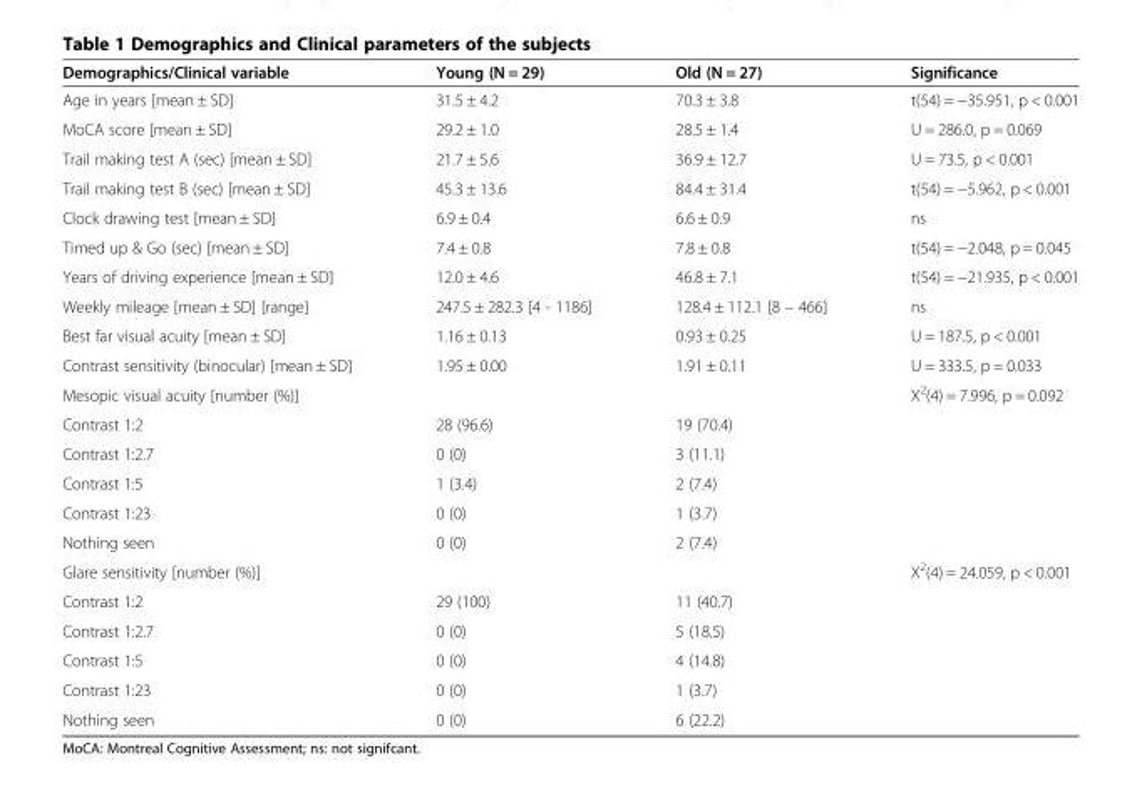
<table><thead><tr><td>Demographics/Clinical variable</td><td>Young (N = 29)</td><td>Old (N = 27)</td><td>Significance</td></tr></thead><tbody><tr><td>Age in years [mean ± SD]</td><td>31.5 ± 4.2</td><td>70.3 ± 3.8</td><td>t(54) = −35.951, p &lt; 0.001</td></tr><tr><td>MoCA score [mean ± SD]</td><td>29.2 ± 1.0</td><td>28.5 ± 1.4</td><td>U = 286.0, p = 0.069</td></tr><tr><td>Trail making test A (sec) [mean ± SD]</td><td>21.7 ± 5.6</td><td>36.9 ± 12.7</td><td>U = 73.5, p &lt; 0.001</td></tr><tr><td>Trail making test B (sec) [mean ± SD]</td><td>45.3 ± 13.6</td><td>84.4 ± 31.4</td><td>t(54) = −5.962, p &lt; 0.001</td></tr><tr><td>Clock drawing test [mean ± SD]</td><td>6.9 ± 0.4</td><td>6.6 ± 0.9</td><td>ns</td></tr><tr><td>Timed up &amp; Go (sec) [mean ± SD]</td><td>7.4 ± 0.8</td><td>7.8 ± 0.8</td><td>t(54) = −2.048, p = 0.045</td></tr><tr><td>Years of driving experience [mean ± SD]</td><td>12.0 ± 4.6</td><td>46.8 ± 7.1</td><td>t(54) = −21.935, p &lt; 0.001</td></tr><tr><td>Weekly mileage [mean ± SD] [range]</td><td>247.5 ± 282.3 [4 - 1186]</td><td>128.4 ± 112.1 [8 – 466]</td><td>ns</td></tr><tr><td>Best far visual acuity [mean ± SD]</td><td>1.16 ± 0.13</td><td>0.93 ± 0.25</td><td>U = 187.5, p &lt; 0.001</td></tr><tr><td>Contrast sensitivity (binocular) [mean ± SD]</td><td>1.95 ± 0.00</td><td>1.91 ± 0.11</td><td>U = 333.5, p = 0.033</td></tr><tr><td colspan="3">Mesopic visual acuity [number (%)]</td><td rowspan="6">Χ<sup>2</sup>(4) = 7.996, p = 0.092</td></tr><tr><td>Contrast 1:2</td><td>28 (96.6)</td><td>19 (70.4)</td></tr><tr><td>Contrast 1:2.7</td><td>0 (0)</td><td>3 (11.1)</td></tr><tr><td>Contrast 1:5</td><td>1 (3.4)</td><td>2 (7.4)</td></tr><tr><td>Contrast 1:23</td><td>0 (0)</td><td>1 (3.7)</td></tr><tr><td>Nothing seen</td><td>0 (0)</td><td>2 (7.4)</td></tr><tr><td colspan="3">Glare sensitivity [number (%)]</td><td rowspan="6">Χ<sup>2</sup>(4) = 24.059, p &lt; 0.001</td></tr><tr><td>Contrast 1:2</td><td>29 (100)</td><td>11 (40.7)</td></tr><tr><td>Contrast 1:2.7</td><td>0 (0)</td><td>5 (18.5)</td></tr><tr><td>Contrast 1:5</td><td>0 (0)</td><td>4 (14.8)</td></tr><tr><td>Contrast 1:23</td><td>0 (0)</td><td>1 (3.7)</td></tr><tr><td>Nothing seen</td><td>0 (0)</td><td>6 (22.2)</td></tr></tbody></table>